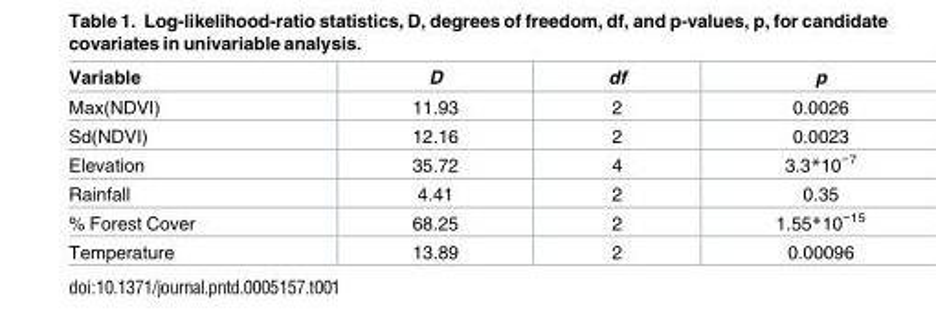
<table><thead><tr><td>Variable</td><td>D</td><td>df</td><td>p</td></tr></thead><tbody><tr><td>Max(NDVI)</td><td>11.93</td><td>2</td><td>0.0026</td></tr><tr><td>Sd(NDVI)</td><td>12.16</td><td>2</td><td>0.0023</td></tr><tr><td>Elevation</td><td>35.72</td><td>4</td><td>3.3*10<sup>−7</sup></td></tr><tr><td>Rainfall</td><td>4.41</td><td>2</td><td>0.35</td></tr><tr><td>% Forest Cover</td><td>68.25</td><td>2</td><td>1.55*10<sup>−15</sup></td></tr><tr><td>Temperature</td><td>13.89</td><td>2</td><td>0.00096</td></tr></tbody></table>